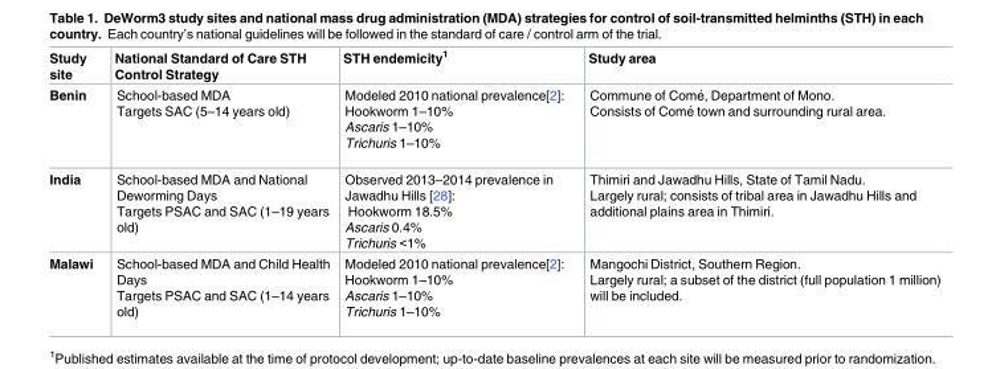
<table><thead><tr><td>Study site</td><td>National Standard of Care STH Control Strategy</td><td>STH endemicity<sup>1</sup></td><td>Study area</td></tr></thead><tbody><tr><td>Benin</td><td>School-based MDA Targets SAC (5–14 years old)</td><td>Modeled 2010 national prevalence[2]: Hookworm 1–10% Ascaris 1–10% Trichuris 1–10%</td><td>Commune of Come´, Department of Mono. Consists of Come´ town and surrounding rural area.</td></tr><tr><td>India</td><td>School-based MDA and National Deworming Days Targets PSAC and SAC (1–19 years old)</td><td>Observed 2013–2014 prevalence in Jawadhu Hills [28]: Hookworm 18.5% Ascaris 0.4% Trichuris &lt;1%</td><td>Thimiri and Jawadhu Hills, State of Tamil Nadu. Largely rural; consists of tribal area in Jawadhu Hills and additional plains area in Thimiri.</td></tr><tr><td>Malawi</td><td>School-based MDA and Child Health Days Targets PSAC and SAC (1–14 years old)</td><td>Modeled 2010 national prevalence[2]: Hookworm 1–10% Ascaris 1–10% Trichuris 1–10%</td><td>Mangochi District, Southern Region. Largely rural; a subset of the district (full population 1 million) will be included.</td></tr></tbody></table>